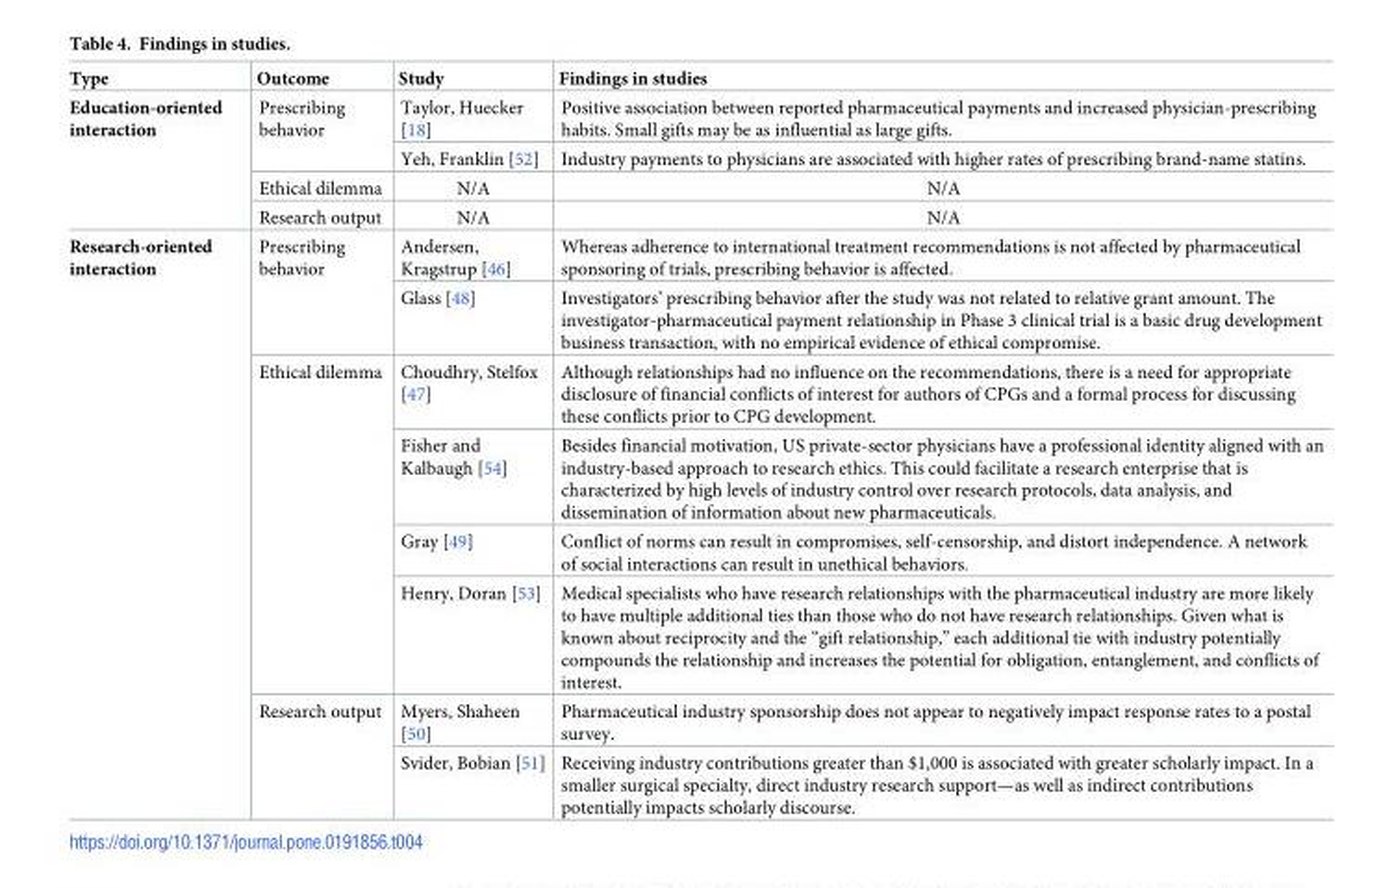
<table><thead><tr><td>Type</td><td>Outcome</td><td>Study</td><td>Findings in studies</td></tr></thead><tbody><tr><td rowspan="4">Education-oriented interaction</td><td rowspan="2">Prescribing behavior</td><td>Taylor, Huecker [18]</td><td>Positive association between reported pharmaceutical payments and increased physician-prescribing habits. Small gifts may be as influential as large gifts.</td></tr><tr><td>Yeh, Franklin [52]</td><td>Industry payments to physicians are associated with higher rates of prescribing brand-name statins.</td></tr><tr><td>Ethical dilemma</td><td>N/A</td><td>N/A</td></tr><tr><td>Research output</td><td>N/A</td><td>N/A</td></tr><tr><td rowspan="8">Research-oriented interaction</td><td rowspan="2">Prescribing behavior</td><td>Andersen, Kragstrup [46]</td><td>Whereas adherence to international treatment recommendations is not affected by pharmaceutical sponsoring of trials, prescribing behavior is affected.</td></tr><tr><td>Glass [48]</td><td>Investigators’ prescribing behavior after the study was not related to relative grant amount. The investigator-pharmaceutical payment relationship in Phase 3 clinical trial is a basic drug development business transaction, with no empirical evidence of ethical compromise.</td></tr><tr><td rowspan="4">Ethical dilemma</td><td>Choudhry, Stelfox [47]</td><td>Although relationships had no influence on the recommendations, there is a need for appropriate disclosure of financial conflicts of interest for authors of CPGs and a formal process for discussing these conflicts prior to CPG development.</td></tr><tr><td>Fisher and Kalbaugh [54]</td><td>Besides financial motivation, US private-sector physicians have a professional identity aligned with an industry-based approach to research ethics. This could facilitate a research enterprise that is characterized by high levels of industry control over research protocols, data analysis, and dissemination of information about new pharmaceuticals.</td></tr><tr><td>Gray [49]</td><td>Conflict of norms can result in compromises, self-censorship, and distort independence. A network of social interactions can result in unethical behaviors.</td></tr><tr><td>Henry, Doran [53]</td><td>Medical specialists who have research relationships with the pharmaceutical industry are more likely to have multiple additional ties than those who do not have research relationships. Given what is known about reciprocity and the “gift relationship,” each additional tie with industry potentially compounds the relationship and increases the potential for obligation, entanglement, and conflicts of interest.</td></tr><tr><td rowspan="2">Research output</td><td>Myers, Shaheen [50]</td><td>Pharmaceutical industry sponsorship does not appear to negatively impact response rates to a postal survey.</td></tr><tr><td>Svider, Bobian [51]</td><td>Receiving industry contributions greater than $1,000 is associated with greater scholarly impact. In a smaller surgical specialty, direct industry research support—as well as indirect contributions potentially impacts scholarly discourse.</td></tr></tbody></table>